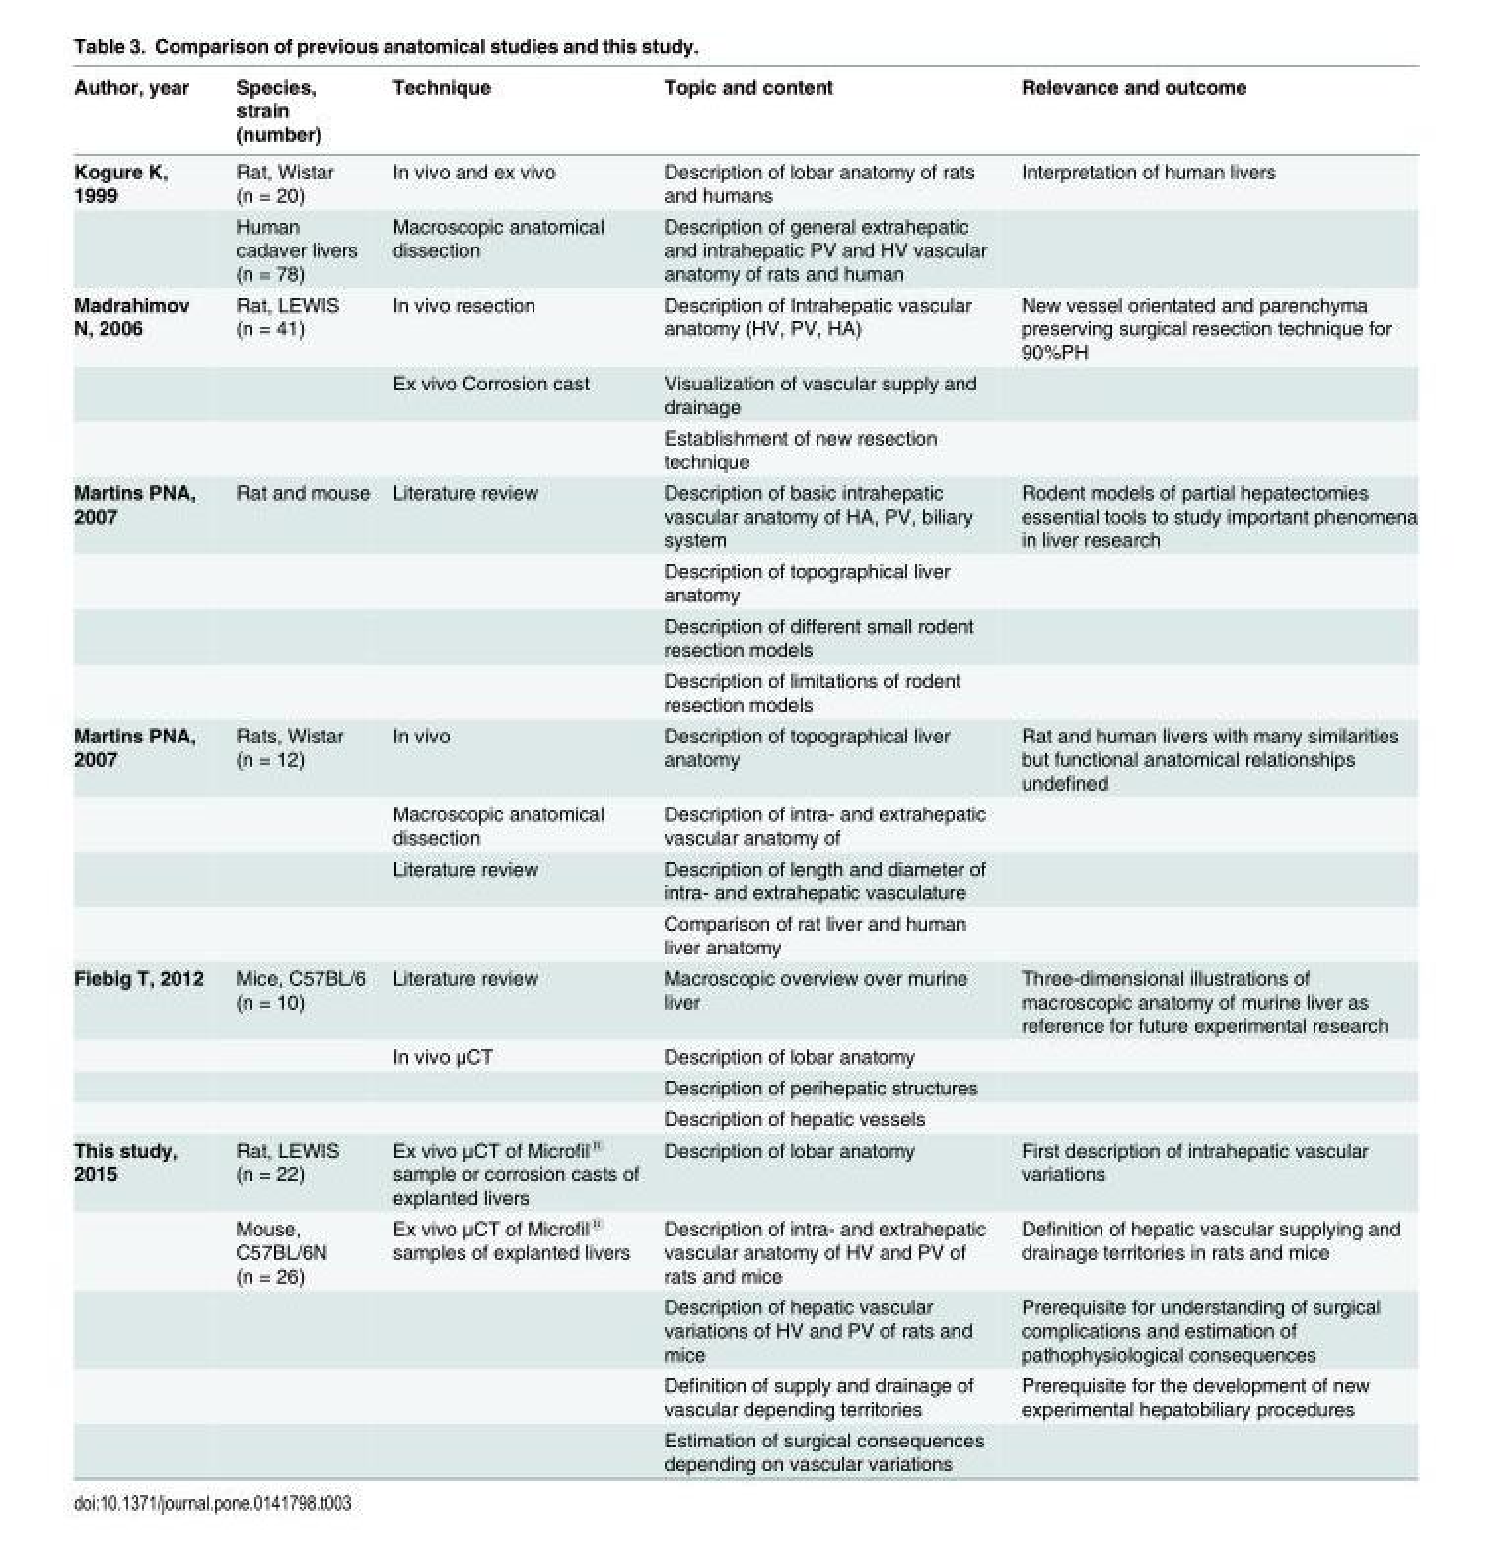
<table><thead><tr><td>Author, year</td><td>Species, strain (number)</td><td>Technique</td><td>Topic and content</td><td>Relevance and outcome</td></tr></thead><tbody><tr><td rowspan="2">Kogure K, 1999</td><td>Rat, Wistar (n = 20)</td><td>In vivo and ex vivo</td><td>Description of lobar anatomy of rats and humans</td><td>Interpretation of human livers</td></tr><tr><td>Human cadaver livers (n = 78)</td><td>Macroscopic anatomical dissection</td><td>Description of general extrahepatic and intrahepatic PV and HV vascular anatomy of rats and human</td><td></td></tr><tr><td rowspan="3">Madrahimov N, 2006</td><td>Rat, LEWIS (n = 41)</td><td>In vivo resection</td><td>Description of Intrahepatic vascular anatomy (HV, PV, HA)</td><td>New vessel orientated and parenchyma preserving surgical resection technique for 90%PH</td></tr><tr><td></td><td>Ex vivo Corrosion cast</td><td>Visualization of vascular supply and drainage</td><td></td></tr><tr><td></td><td></td><td>Establishment of new resection technique</td><td></td></tr><tr><td rowspan="4">Martins PNA, 2007</td><td>Rat and mouse</td><td>Literature review</td><td>Description of basic intrahepatic vascular anatomy of HA, PV, biliary system</td><td>Rodent models of partial hepatectomies essential tools to study important phenomena in liver research</td></tr><tr><td></td><td></td><td>Description of topographical liver anatomy</td><td></td></tr><tr><td></td><td></td><td>Description of different small rodent resection models</td><td></td></tr><tr><td></td><td></td><td>Description of limitations of rodent resection models</td><td></td></tr><tr><td rowspan="4">Martins PNA, 2007</td><td>Rats, Wistar (n = 12)</td><td>In vivo</td><td>Description of topographical liver anatomy</td><td>Rat and human livers with many similarities but functional anatomical relationships undefined</td></tr><tr><td></td><td>Macroscopic anatomical dissection</td><td>Description of intra- and extrahepatic vascular anatomy of</td><td></td></tr><tr><td></td><td>Literature review</td><td>Description of length and diameter of intra- and extrahepatic vasculature</td><td></td></tr><tr><td></td><td></td><td>Comparison of rat liver and human liver anatomy</td><td></td></tr><tr><td rowspan="4">Fiebig T, 2012</td><td>Mice, C57BL/6 (n = 10)</td><td>Literature review</td><td>Macroscopic overview over murine liver</td><td>Three-dimensional illustrations of macroscopic anatomy of murine liver as reference for future experimental research</td></tr><tr><td></td><td>In vivo μCT</td><td>Description of lobar anatomy</td><td></td></tr><tr><td></td><td></td><td>Description of perihepatic structures</td><td></td></tr><tr><td></td><td></td><td>Description of hepatic vessels</td><td></td></tr><tr><td rowspan="5">This study, 2015</td><td>Rat, LEWIS (n = 22)</td><td>Ex vivo μCT of Microfil<sup>®</sup> sample or corrosion casts of explanted livers</td><td>Description of lobar anatomy</td><td>First description of intrahepatic vascular variations</td></tr><tr><td>Mouse, C57BL/6N (n = 26)</td><td>Ex vivo μCT of Microfil<sup>®</sup> samples of explanted livers</td><td>Description of intra- and extrahepatic vascular anatomy of HV and PV of rats and mice</td><td>Definition of hepatic vascular supplying and drainage territories in rats and mice</td></tr><tr><td></td><td></td><td>Description of hepatic vascular variations of HV and PV of rats and mice</td><td>Prerequisite for understanding of surgical complications and estimation of pathophysiological consequences</td></tr><tr><td></td><td></td><td>Definition of supply and drainage of vascular depending territories</td><td>Prerequisite for the development of new experimental hepatobiliary procedures</td></tr><tr><td></td><td></td><td>Estimation of surgical consequences depending on vascular variations</td><td></td></tr></tbody></table>